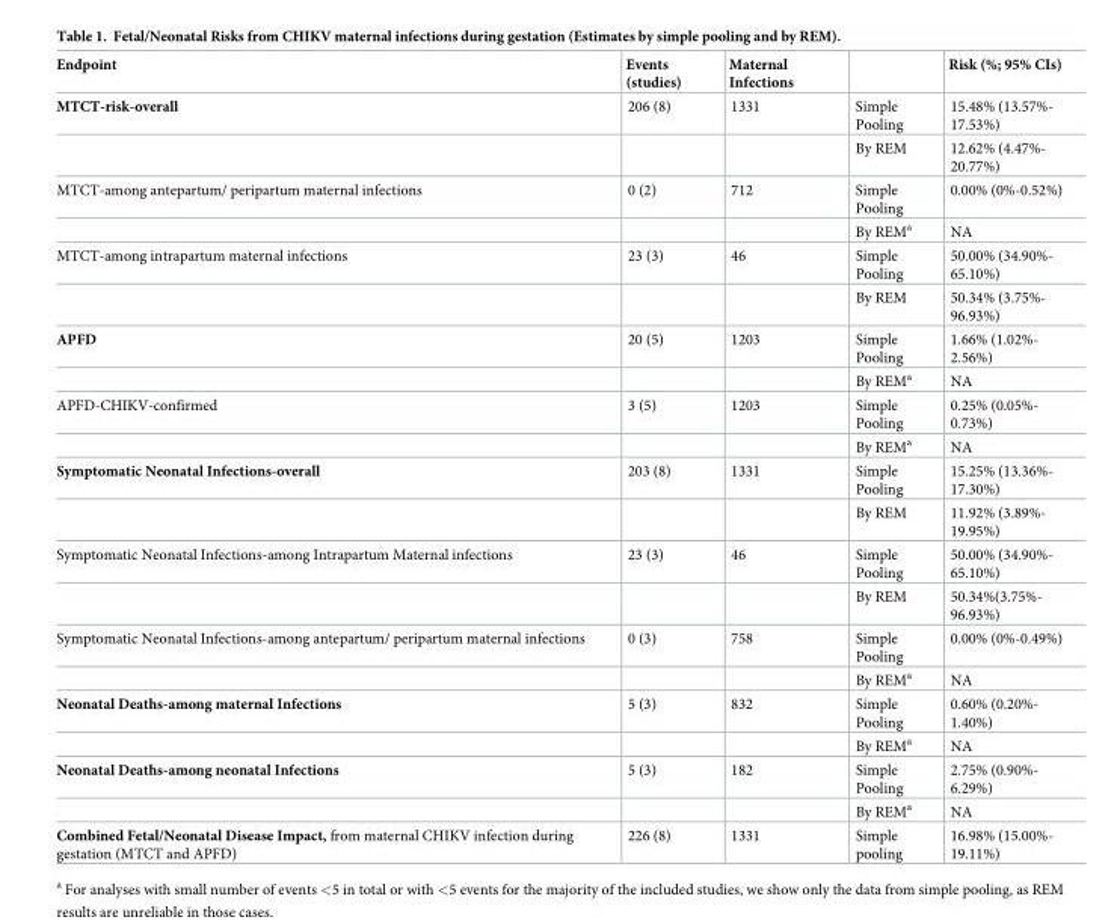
<table><thead><tr><td>Endpoint</td><td>Events (studies)</td><td>Maternal Infections</td><td></td><td>Risk (%; 95% CIs)</td></tr></thead><tbody><tr><td rowspan="2">MTCT-risk-overall</td><td>206 (8)</td><td>1331</td><td>Simple Pooling</td><td>15.48% (13.57%- 17.53%)</td></tr><tr><td></td><td></td><td>By REM</td><td>12.62% (4.47%- 20.77%)</td></tr><tr><td rowspan="2">MTCT-among antepartum/ peripartum maternal infections</td><td>0 (2)</td><td>712</td><td>Simple Pooling</td><td>0.00% (0%-0.52%)</td></tr><tr><td></td><td></td><td>By REM<sup>a</sup></td><td>NA</td></tr><tr><td rowspan="2">MTCT-among intrapartum maternal infections</td><td>23 (3)</td><td>46</td><td>Simple Pooling</td><td>50.00% (34.90%- 65.10%)</td></tr><tr><td></td><td></td><td>By REM</td><td>50.34% (3.75%- 96.93%)</td></tr><tr><td rowspan="2">APFD</td><td>20 (5)</td><td>1203</td><td>Simple Pooling</td><td>1.66% (1.02%- 2.56%)</td></tr><tr><td></td><td></td><td>By REM<sup>a</sup></td><td>NA</td></tr><tr><td rowspan="2">APFD-CHIKV-confirmed</td><td>3 (5)</td><td>1203</td><td>Simple Pooling</td><td>0.25% (0.05%- 0.73%)</td></tr><tr><td></td><td></td><td>By REM<sup>a</sup></td><td>NA</td></tr><tr><td rowspan="2">Symptomatic Neonatal Infections-overall</td><td>203 (8)</td><td>1331</td><td>Simple Pooling</td><td>15.25% (13.36%- 17.30%)</td></tr><tr><td></td><td></td><td>By REM</td><td>11.92% (3.89%- 19.95%)</td></tr><tr><td rowspan="2">Symptomatic Neonatal Infections-among Intrapartum Maternal infections</td><td>23 (3)</td><td>46</td><td>Simple Pooling</td><td>50.00% (34.90%- 65.10%)</td></tr><tr><td></td><td></td><td>By REM</td><td>50.34%(3.75%- 96.93%)</td></tr><tr><td rowspan="2">Symptomatic Neonatal Infections-among antepartum/ peripartum maternal infections</td><td>0 (3)</td><td>758</td><td>Simple Pooling</td><td>0.00% (0%-0.49%)</td></tr><tr><td></td><td></td><td>By REM<sup>a</sup></td><td>NA</td></tr><tr><td rowspan="2">Neonatal Deaths-among maternal Infections</td><td>5 (3)</td><td>832</td><td>Simple Pooling</td><td>0.60% (0.20%- 1.40%)</td></tr><tr><td></td><td></td><td>By REM<sup>a</sup></td><td>NA</td></tr><tr><td rowspan="2">Neonatal Deaths-among neonatal Infections</td><td>5 (3)</td><td>182</td><td>Simple Pooling</td><td>2.75% (0.90%- 6.29%)</td></tr><tr><td></td><td></td><td>By REM<sup>a</sup></td><td>NA</td></tr><tr><td>Combined Fetal/Neonatal Disease Impact, from maternal CHIKV infection during gestation (MTCT and APFD)</td><td>226 (8)</td><td>1331</td><td>Simple pooling</td><td>16.98% (15.00%- 19.11%)</td></tr></tbody></table>